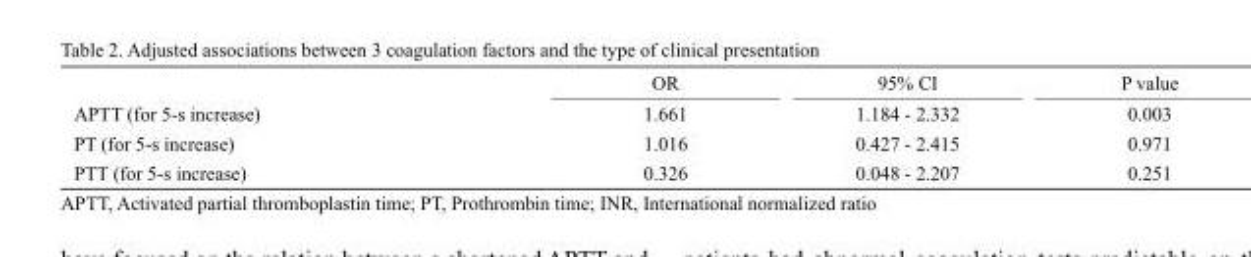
<table><thead><tr><td></td><td>OR</td><td>95% CI</td><td>P value</td></tr></thead><tbody><tr><td>APTT (for 5-s increase)</td><td>1.661</td><td>1.184 - 2.332</td><td>0.003</td></tr><tr><td>PT (for 5-s increase)</td><td>1.016</td><td>0.427 - 2.415</td><td>0.971</td></tr><tr><td>PTT (for 5-s increase)</td><td>0.326</td><td>0.048 - 2.207</td><td>0.251</td></tr></tbody></table>